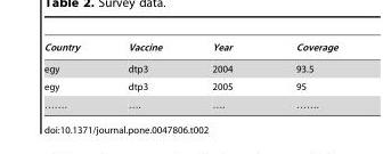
<table><thead><tr><td>Country</td><td>Vaccine</td><td>Year</td><td>Coverage</td></tr></thead><tbody><tr><td>egy</td><td>dtp3</td><td>2004</td><td>93.5</td></tr><tr><td>egy</td><td>dtp3</td><td>2005</td><td>95</td></tr><tr><td>…….</td><td>….</td><td>….</td><td>…….</td></tr></tbody></table>